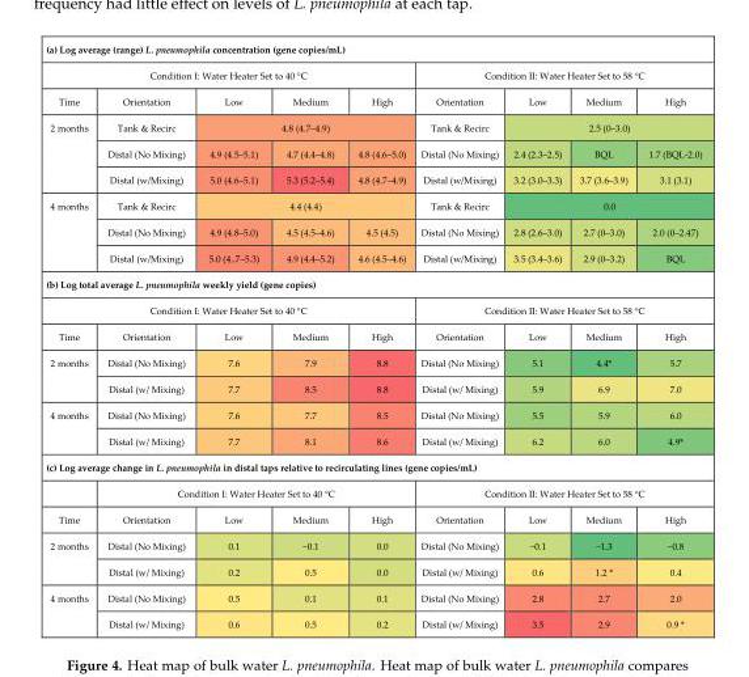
<table><tbody><tr><td colspan="9">(a) Log average (range) L. pneumophila concentration (gene copies/mL)</td></tr><tr><td colspan="5">Condition I: Water Heater Set to 40 °C</td><td colspan="4">Condition II: Water Heater Set to 58 °C</td></tr><tr><td>Time</td><td>Orientation</td><td>Low</td><td>Medium</td><td>High</td><td>Orientation</td><td>Low</td><td>Medium</td><td>High</td></tr><tr><td rowspan="3">2 months</td><td>Tank &amp; Recirc</td><td colspan="3">4.8 (4.7–4.9)</td><td>Tank &amp; Recirc</td><td colspan="3">2.5 (0–3.0)</td></tr><tr><td>Distal (No Mixing)</td><td>4.9 (4.5–5.1)</td><td>4.7 (4.4–4.8)</td><td>4.8 (4.6–5.0)</td><td>Distal (No Mixing)</td><td>2.4 (2.3–2.5)</td><td>BQL</td><td>1.7 (BQL-2.0)</td></tr><tr><td>Distal (w/Mixing)</td><td>5.0 (4.6–5.1)</td><td>5.3 (5.2–5.4)</td><td>4.8 (4.7–4.9)</td><td>Distal (w/Mixing)</td><td>3.2 (3.0–3.3)</td><td>3.7 (3.6–3.9)</td><td>3.1 (3.1)</td></tr><tr><td rowspan="3">4 months</td><td>Tank &amp; Recirc</td><td colspan="3">4.4 (4.4)</td><td>Tank &amp; Recirc</td><td colspan="3">0.0</td></tr><tr><td>Distal (No Mixing)</td><td>4.9 (4.8–5.0)</td><td>4.5 (4.5–4.6)</td><td>4.5 (4.5)</td><td>Distal (No Mixing)</td><td>2.8 (2.6–3.0)</td><td>2.7 (0–3.0)</td><td>2.0 (0–2.47)</td></tr><tr><td>Distal (w/Mixing)</td><td>5.0 (4..7–5.3)</td><td>4.9 (4.4–5.2)</td><td>4.6 (4.5–4.6)</td><td>Distal (w/Mixing)</td><td>3.5 (3.4–3.6)</td><td>2.9 (0–3.2)</td><td>BQL</td></tr><tr><td colspan="9">(b) Log total average L. pneumophila weekly yield (gene copies)</td></tr><tr><td colspan="5">Condition I: Water Heater Set to 40 °C</td><td colspan="4">Condition II: Water Heater Set to 58 °C</td></tr><tr><td>Time</td><td>Orientation</td><td>Low</td><td>Medium</td><td>High</td><td>Orientation</td><td>Low</td><td>Medium</td><td>High</td></tr><tr><td rowspan="2">2 months</td><td>Distal (No Mixing)</td><td>7.6</td><td>7.9</td><td>8.8</td><td>Distal (No Mixing)</td><td>5.1</td><td>4.4*</td><td>5.7</td></tr><tr><td>Distal (w/ Mixing)</td><td>7.7</td><td>8.5</td><td>8.8</td><td>Distal (w/ Mixing)</td><td>5.9</td><td>6.9</td><td>7.0</td></tr><tr><td rowspan="2">4 months</td><td>Distal (No Mixing)</td><td>7.6</td><td>7.7</td><td>8.5</td><td>Distal (No Mixing)</td><td>5.5</td><td>5.9</td><td>6.0</td></tr><tr><td>Distal (w/ Mixing)</td><td>7.7</td><td>8.1</td><td>8.6</td><td>Distal (w/ Mixing)</td><td>6.2</td><td>6.0</td><td>4.9*</td></tr><tr><td colspan="9">(c) Log average change in L. pneumophila in distal taps relative to recirculating lines (gene copies/mL)</td></tr><tr><td></td><td colspan="4">Condition I: Water Heater Set to 40 °C</td><td colspan="4">Condition II: Water Heater Set to 58 °C</td></tr><tr><td>Time</td><td>Orientation</td><td>Low</td><td>Medium</td><td>High</td><td>Orientation</td><td>Low</td><td>Medium</td><td>High</td></tr><tr><td rowspan="2">2 months</td><td>Distal (No Mixing)</td><td>0.1</td><td>−0.1</td><td>0.0</td><td>Distal (No Mixing)</td><td>−0.1</td><td>−1.3</td><td>−0.8</td></tr><tr><td>Distal (w/ Mixing)</td><td>0.2</td><td>0.5</td><td>0.0</td><td>Distal (w/ Mixing)</td><td>0.6</td><td>1.2 *</td><td>0.4</td></tr><tr><td rowspan="2">4 months</td><td>Distal (No Mixing)</td><td>0.5</td><td>0.1</td><td>0.1</td><td>Distal (No Mixing)</td><td>2.8</td><td>2.7</td><td>2.0</td></tr><tr><td>Distal (w/ Mixing)</td><td>0.6</td><td>0.5</td><td>0.2</td><td>Distal (w/ Mixing)</td><td>3.5</td><td>2.9</td><td>0.9 *</td></tr></tbody></table>